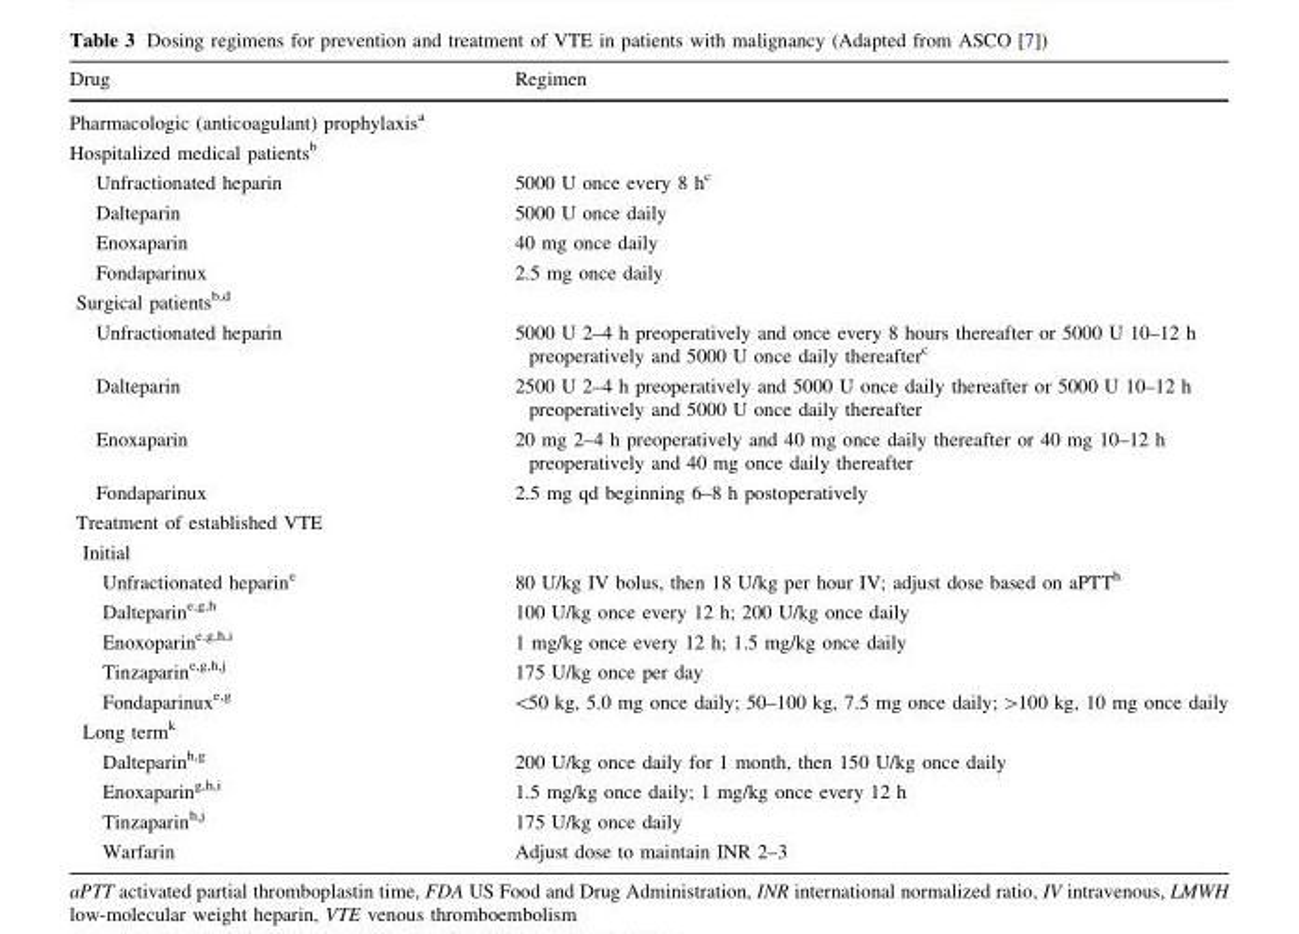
<table><thead><tr><td>Drug</td><td>Regimen</td></tr></thead><tbody><tr><td colspan="2">Pharmacologic (anticoagulant) prophylaxis<sup>a</sup></td></tr><tr><td colspan="2">Hospitalized medical patients<sup>b</sup></td></tr><tr><td>Unfractionated heparin</td><td>5000 U once every 8 h<sup>c</sup></td></tr><tr><td>Dalteparin</td><td>5000 U once daily</td></tr><tr><td>Enoxaparin</td><td>40 mg once daily</td></tr><tr><td>Fondaparinux</td><td>2.5 mg once daily</td></tr><tr><td colspan="2">Surgical patients<sup>b,d</sup></td></tr><tr><td>Unfractionated heparin</td><td>5000 U 2–4 h preoperatively and once every 8 hours thereafter or 5000 U 10–12 h preoperatively and 5000 U once daily thereafter<sup>c</sup></td></tr><tr><td>Dalteparin</td><td>2500 U 2–4 h preoperatively and 5000 U once daily thereafter or 5000 U 10–12 h preoperatively and 5000 U once daily thereafter</td></tr><tr><td>Enoxaparin</td><td>20 mg 2–4 h preoperatively and 40 mg once daily thereafter or 40 mg 10–12 h preoperatively and 40 mg once daily thereafter</td></tr><tr><td>Fondaparinux</td><td>2.5 mg qd beginning 6–8 h postoperatively</td></tr><tr><td colspan="2">Treatment of established VTE</td></tr><tr><td colspan="2">Initial</td></tr><tr><td>Unfractionated heparin<sup>e</sup></td><td>80 U/kg IV bolus, then 18 U/kg per hour IV; adjust dose based on aPTT<sup>h</sup></td></tr><tr><td>Dalteparin<sup>e,g,h</sup></td><td>100 U/kg once every 12 h; 200 U/kg once daily</td></tr><tr><td>Enoxoparin<sup>e,g,h,i</sup></td><td>1 mg/kg once every 12 h; 1.5 mg/kg once daily</td></tr><tr><td>Tinzaparin<sup>e,g,h,j</sup></td><td>175 U/kg once per day</td></tr><tr><td>Fondaparinux<sup>e,g</sup></td><td>&lt;50 kg, 5.0 mg once daily; 50–100 kg, 7.5 mg once daily; &gt;100 kg, 10 mg once daily</td></tr><tr><td colspan="2">Long term<sup>k</sup></td></tr><tr><td>Dalteparin<sup>h,g</sup></td><td>200 U/kg once daily for 1 month, then 150 U/kg once daily</td></tr><tr><td>Enoxaparin<sup>g,h,i</sup></td><td>1.5 mg/kg once daily; 1 mg/kg once every 12 h</td></tr><tr><td>Tinzaparin<sup>h,j</sup></td><td>175 U/kg once daily</td></tr><tr><td>Warfarin</td><td>Adjust dose to maintain INR 2–3</td></tr></tbody></table>